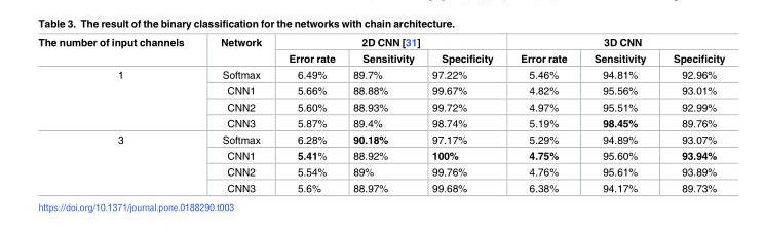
<table><thead><tr><td rowspan="2">The number of input channels</td><td rowspan="2">Network</td><td colspan="3">2D CNN [31]</td><td colspan="3">3D CNN</td></tr><tr><td>Error rate</td><td>Sensitivity</td><td>Specificity</td><td>Error rate</td><td>Sensitivity</td><td>Specificity</td></tr></thead><tbody><tr><td rowspan="4">1</td><td>Softmax</td><td>6.49%</td><td>89.7%</td><td>97.22%</td><td>5.46%</td><td>94.81%</td><td>92.96%</td></tr><tr><td>CNN1</td><td>5.66%</td><td>88.88%</td><td>99.67%</td><td>4.82%</td><td>95.56%</td><td>93.01%</td></tr><tr><td>CNN2</td><td>5.60%</td><td>88.93%</td><td>99.72%</td><td>4.97%</td><td>95.51%</td><td>92.99%</td></tr><tr><td>CNN3</td><td>5.87%</td><td>89.4%</td><td>98.74%</td><td>5.19%</td><td>98.45%</td><td>89.76%</td></tr><tr><td rowspan="4">3</td><td>Softmax</td><td>6.28%</td><td>90.18%</td><td>97.17%</td><td>5.29%</td><td>94.89%</td><td>93.07%</td></tr><tr><td>CNN1</td><td>5.41%</td><td>88.92%</td><td>100%</td><td>4.75%</td><td>95.60%</td><td>93.94%</td></tr><tr><td>CNN2</td><td>5.54%</td><td>89%</td><td>99.76%</td><td>4.76%</td><td>95.61%</td><td>93.89%</td></tr><tr><td>CNN3</td><td>5.6%</td><td>88.97%</td><td>99.68%</td><td>6.38%</td><td>94.17%</td><td>89.73%</td></tr></tbody></table>